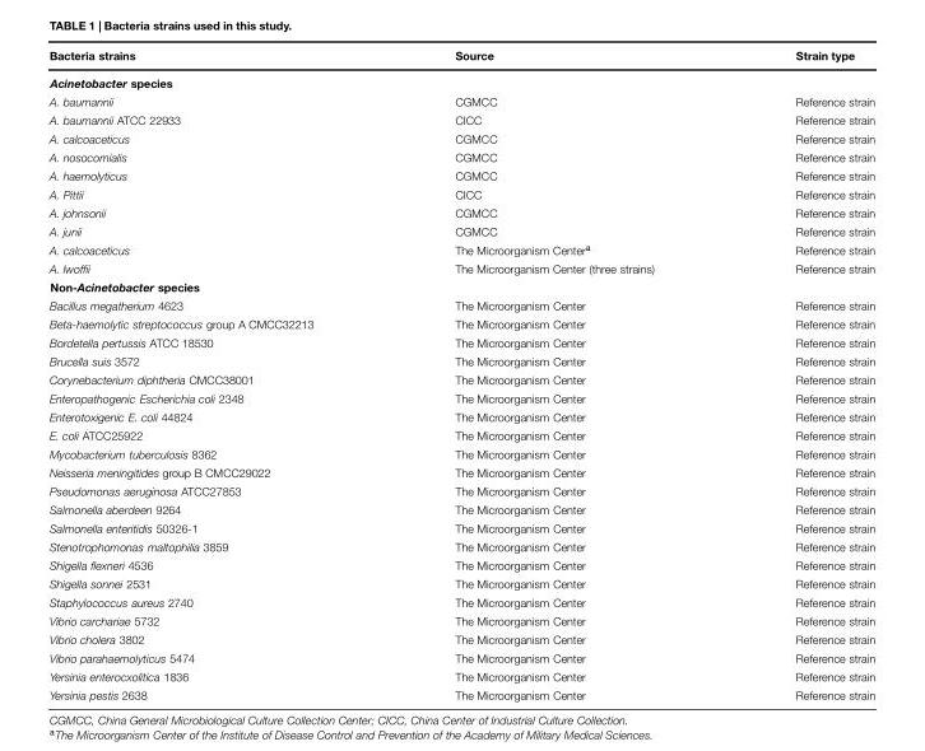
<table><thead><tr><td>Bacteria strains</td><td>Source</td><td>Strain type</td></tr></thead><tbody><tr><td colspan="3">Acinetobacter species</td></tr><tr><td>A. baumannii</td><td>CGMCC</td><td>Reference strain</td></tr><tr><td>A. baumannii ATCC 22933</td><td>CICC</td><td>Reference strain</td></tr><tr><td>A. calcoaceticus</td><td>CGMCC</td><td>Reference strain</td></tr><tr><td>A. nosocomialis</td><td>CGMCC</td><td>Reference strain</td></tr><tr><td>A. haemolyticus</td><td>CGMCC</td><td>Reference strain</td></tr><tr><td>A. Pittii</td><td>CICC</td><td>Reference strain</td></tr><tr><td>A. johnsonii</td><td>CGMCC</td><td>Reference strain</td></tr><tr><td>A. junii</td><td>CGMCC</td><td>Reference strain</td></tr><tr><td>A. calcoaceticus</td><td>The Microorganism Center<sup>a</sup></td><td>Reference strain</td></tr><tr><td>A. lwoffii</td><td>The Microorganism Center (three strains)</td><td>Reference strain</td></tr><tr><td colspan="3">Non-Acinetobacter species</td></tr><tr><td>Bacillus megatherium 4623</td><td>The Microorganism Center</td><td>Reference strain</td></tr><tr><td>Beta-haemolytic streptococcus group A CMCC32213</td><td>The Microorganism Center</td><td>Reference strain</td></tr><tr><td>Bordetella pertussis ATCC 18530</td><td>The Microorganism Center</td><td>Reference strain</td></tr><tr><td>Brucella suis 3572</td><td>The Microorganism Center</td><td>Reference strain</td></tr><tr><td>Corynebacterium diphtheria CMCC38001</td><td>The Microorganism Center</td><td>Reference strain</td></tr><tr><td>Enteropathogenic Escherichia coli 2348</td><td>The Microorganism Center</td><td>Reference strain</td></tr><tr><td>Enterotoxigenic E. coli 44824</td><td>The Microorganism Center</td><td>Reference strain</td></tr><tr><td>E. coli ATCC25922</td><td>The Microorganism Center</td><td>Reference strain</td></tr><tr><td>Mycobacterium tuberculosis 8362</td><td>The Microorganism Center</td><td>Reference strain</td></tr><tr><td>Neisseria meningitides group B CMCC29022</td><td>The Microorganism Center</td><td>Reference strain</td></tr><tr><td>Pseudomonas aeruginosa ATCC27853</td><td>The Microorganism Center</td><td>Reference strain</td></tr><tr><td>Salmonella aberdeen 9264</td><td>The Microorganism Center</td><td>Reference strain</td></tr><tr><td>Salmonella enteritidis 50326-1</td><td>The Microorganism Center</td><td>Reference strain</td></tr><tr><td>Stenotrophomonas maltophilia 3859</td><td>The Microorganism Center</td><td>Reference strain</td></tr><tr><td>Shigella flexneri 4536</td><td>The Microorganism Center</td><td>Reference strain</td></tr><tr><td>Shigella sonnei 2531</td><td>The Microorganism Center</td><td>Reference strain</td></tr><tr><td>Staphylococcus aureus 2740</td><td>The Microorganism Center</td><td>Reference strain</td></tr><tr><td>Vibrio carchariae 5732</td><td>The Microorganism Center</td><td>Reference strain</td></tr><tr><td>Vibrio cholera 3802</td><td>The Microorganism Center</td><td>Reference strain</td></tr><tr><td>Vibrio parahaemolyticus 5474</td><td>The Microorganism Center</td><td>Reference strain</td></tr><tr><td>Yersinia enterocxolitica 1836</td><td>The Microorganism Center</td><td>Reference strain</td></tr><tr><td>Yersinia pestis 2638</td><td>The Microorganism Center</td><td>Reference strain</td></tr></tbody></table>